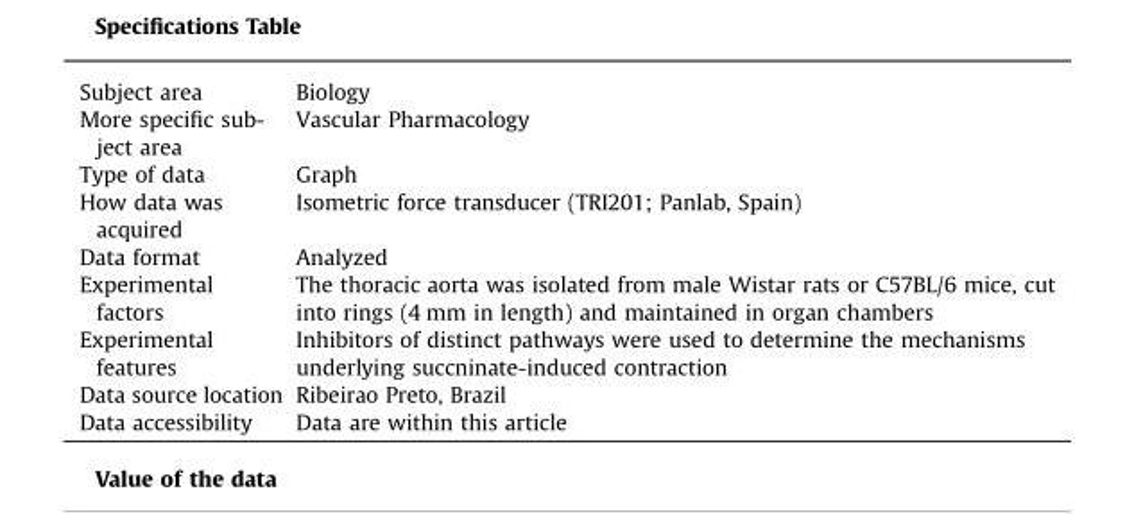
<table><tbody><tr><td>Subject area</td><td>Biology</td></tr><tr><td>More specific sub- ject area</td><td>Vascular Pharmacology</td></tr><tr><td>Type of data</td><td>Graph</td></tr><tr><td>How data was acquired</td><td>Isometric force transducer (TRI201; Panlab, Spain)</td></tr><tr><td>Data format</td><td>Analyzed</td></tr><tr><td>Experimental factors</td><td>The thoracic aorta was isolated from male Wistar rats or C57BL/6 mice, cut into rings (4 mm in length) and maintained in organ chambers</td></tr><tr><td>Experimental features</td><td>Inhibitors of distinct pathways were used to determine the mechanisms underlying succninate-induced contraction</td></tr><tr><td>Data source location</td><td>Ribeirao Preto, Brazil</td></tr><tr><td>Data accessibility</td><td>Data are within this article</td></tr></tbody></table>